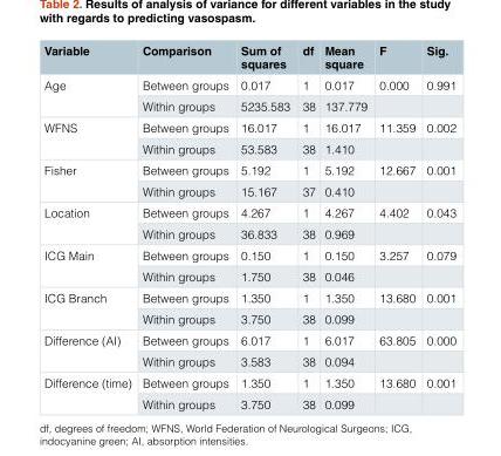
<table><thead><tr><td>Variable</td><td>Comparison</td><td>Sum of squares</td><td>df</td><td>Mean square</td><td>F</td><td>Sig.</td></tr></thead><tbody><tr><td rowspan="2">Age</td><td>Between groups</td><td>0.017</td><td>1</td><td>0.017</td><td>0.000</td><td>0.991</td></tr><tr><td>Within groups</td><td>5235.583</td><td>38</td><td>137.779</td><td></td><td></td></tr><tr><td rowspan="2">WFNS</td><td>Between groups</td><td>16.017</td><td>1</td><td>16.017</td><td>11.359</td><td>0.002</td></tr><tr><td>Within groups</td><td>53.583</td><td>38</td><td>1.410</td><td></td><td></td></tr><tr><td rowspan="2">Fisher</td><td>Between groups</td><td>5.192</td><td>1</td><td>5.192</td><td>12.667</td><td>0.001</td></tr><tr><td>Within groups</td><td>15.167</td><td>37</td><td>0.410</td><td></td><td></td></tr><tr><td rowspan="2">Location</td><td>Between groups</td><td>4.267</td><td>1</td><td>4.267</td><td>4.402</td><td>0.043</td></tr><tr><td>Within groups</td><td>36.833</td><td>38</td><td>0.969</td><td></td><td></td></tr><tr><td rowspan="2">ICG Main</td><td>Between groups</td><td>0.150</td><td>1</td><td>0.150</td><td>3.257</td><td>0.079</td></tr><tr><td>Within groups</td><td>1.750</td><td>38</td><td>0.046</td><td></td><td></td></tr><tr><td rowspan="2">ICG Branch</td><td>Between groups</td><td>1.350</td><td>1</td><td>1.350</td><td>13.680</td><td>0.001</td></tr><tr><td>Within groups</td><td>3.750</td><td>38</td><td>0.099</td><td></td><td></td></tr><tr><td rowspan="2">Difference (AI)</td><td>Between groups</td><td>6.017</td><td>1</td><td>6.017</td><td>63.805</td><td>0.000</td></tr><tr><td>Within groups</td><td>3.583</td><td>38</td><td>0.094</td><td></td><td></td></tr><tr><td rowspan="2">Difference (time)</td><td>Between groups</td><td>1.350</td><td>1</td><td>1.350</td><td>13.680</td><td>0.001</td></tr><tr><td>Within groups</td><td>3.750</td><td>38</td><td>0.099</td><td></td><td></td></tr></tbody></table>